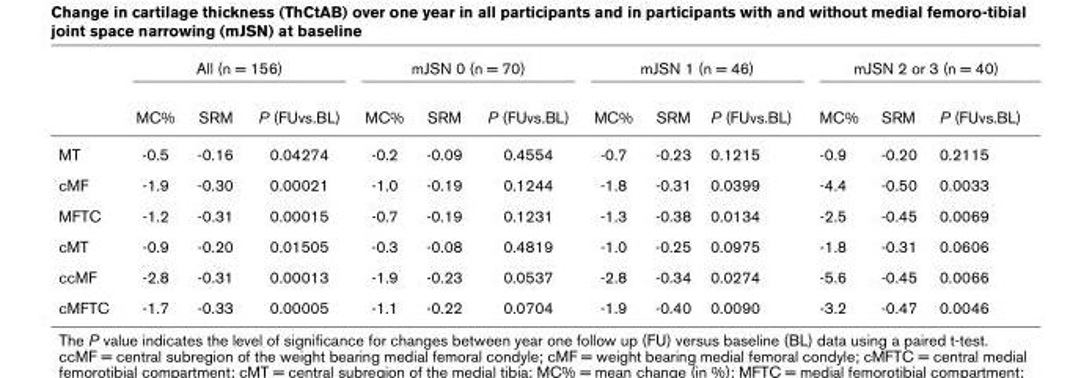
<table><thead><tr><td rowspan="2"></td><td colspan="3">All (n = 156)</td><td colspan="3">mJSN 0 (n = 70)</td><td colspan="3">mJSN 1 (n = 46)</td><td colspan="3">mJSN 2 or 3 (n = 40)</td></tr><tr><td>MC%</td><td>SRM</td><td>P (FUvs.BL)</td><td>MC%</td><td>SRM</td><td>P (FUvs.BL)</td><td>MC%</td><td>SRM</td><td>P (FUvs.BL)</td><td>MC%</td><td>SRM</td><td>P (FUvs.BL)</td></tr></thead><tbody><tr><td>MT</td><td>-0.5</td><td>-0.16</td><td>0.04274</td><td>-0.2</td><td>-0.09</td><td>0.4554</td><td>-0.7</td><td>-0.23</td><td>0.1215</td><td>-0.9</td><td>-0.20</td><td>0.2115</td></tr><tr><td>cMF</td><td>-1.9</td><td>-0.30</td><td>0.00021</td><td>-1.0</td><td>-0.19</td><td>0.1244</td><td>-1.8</td><td>-0.31</td><td>0.0399</td><td>-4.4</td><td>-0.50</td><td>0.0033</td></tr><tr><td>MFTC</td><td>-1.2</td><td>-0.31</td><td>0.00015</td><td>-0.7</td><td>-0.19</td><td>0.1231</td><td>-1.3</td><td>-0.38</td><td>0.0134</td><td>-2.5</td><td>-0.45</td><td>0.0069</td></tr><tr><td>cMT</td><td>-0.9</td><td>-0.20</td><td>0.01505</td><td>-0.3</td><td>-0.08</td><td>0.4819</td><td>-1.0</td><td>-0.25</td><td>0.0975</td><td>-1.8</td><td>-0.31</td><td>0.0606</td></tr><tr><td>ccMF</td><td>-2.8</td><td>-0.31</td><td>0.00013</td><td>-1.9</td><td>-0.23</td><td>0.0537</td><td>-2.8</td><td>-0.34</td><td>0.0274</td><td>-5.6</td><td>-0.45</td><td>0.0066</td></tr><tr><td>cMFTC</td><td>-1.7</td><td>-0.33</td><td>0.00005</td><td>-1.1</td><td>-0.22</td><td>0.0704</td><td>-1.9</td><td>-0.40</td><td>0.0090</td><td>-3.2</td><td>-0.47</td><td>0.0046</td></tr></tbody></table>